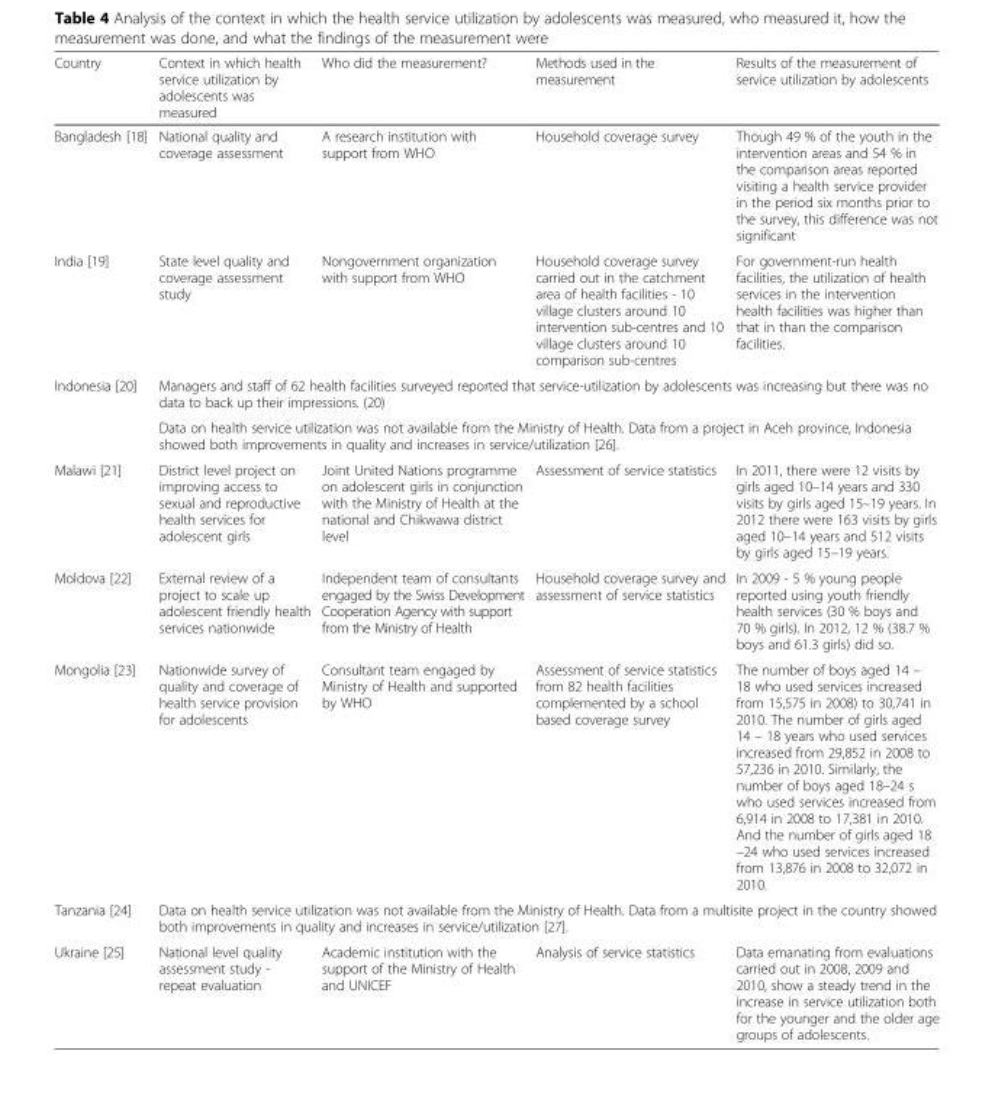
<table><thead><tr><td>Country</td><td>Context in which health service utilization by adolescents was measured</td><td>Who did the measurement?</td><td>Methods used in the measurement</td><td>Results of the measurement of service utilization by adolescents</td></tr></thead><tbody><tr><td>Bangladesh [18]</td><td>National quality and coverage assessment</td><td>A research institution with support from WHO</td><td>Household coverage survey</td><td>Though 49 % of the youth in the intervention areas and 54 % in the comparison areas reported visiting a health service provider in the period six months prior to the survey, this difference was not significant</td></tr><tr><td>India [19]</td><td>State level quality and coverage assessment study</td><td>Nongovernment organization with support from WHO</td><td>Household coverage survey carried out in the catchment area of health facilities - 10 village clusters around 10 intervention sub-centres and 10 village clusters around 10 comparison sub-centres</td><td>For government-run health facilities, the utilization of health services in the intervention health facilities was higher than that in than the comparison facilities.</td></tr><tr><td rowspan="2">Indonesia [20]</td><td colspan="4">Managers and staff of 62 health facilities surveyed reported that service-utilization by adolescents was increasing but there was no data to back up their impressions. (20)</td></tr><tr><td colspan="4">Data on health service utilization was not available from the Ministry of Health. Data from a project in Aceh province, Indonesia showed both improvements in quality and increases in service/utilization [26].</td></tr><tr><td>Malawi [21]</td><td>District level project on improving access to sexual and reproductive health services for adolescent girls</td><td>Joint United Nations programme on adolescent girls in conjunction with the Ministry of Health at the national and Chikwawa district level</td><td>Assessment of service statistics</td><td>In 2011, there were 12 visits by girls aged 10–14 years and 330 visits by girls aged 15–19 years. In 2012 there were 163 visits by girls aged 10–14 years and 512 visits by girls aged 15–19 years.</td></tr><tr><td>Moldova [22]</td><td>External review of a project to scale up adolescent friendly health services nationwide</td><td>Independent team of consultants engaged by the Swiss Development Cooperation Agency with support from the Ministry of Health</td><td>Household coverage survey and assessment of service statistics</td><td>In 2009 - 5 % young people reported using youth friendly health services (30 % boys and 70 % girls). In 2012, 12 % (38.7 % boys and 61.3 girls) did so.</td></tr><tr><td>Mongolia [23]</td><td>Nationwide survey of quality and coverage of health service provision for adolescents</td><td>Consultant team engaged by Ministry of Health and supported by WHO</td><td>Assessment of service statistics from 82 health facilities complemented by a school based coverage survey</td><td>The number of boys aged 14 – 18 who used services increased from 15,575 in 2008) to 30,741 in 2010. The number of girls aged 14 – 18 years who used services increased from 29,852 in 2008 to 57,236 in 2010. Similarly, the number of boys aged 18–24 s who used services increased from 6,914 in 2008 to 17,381 in 2010. And the number of girls aged 18 –24 who used services increased from 13,876 in 2008 to 32,072 in 2010.</td></tr><tr><td>Tanzania [24]</td><td colspan="4">Data on health service utilization was not available from the Ministry of Health. Data from a multisite project in the country showed both improvements in quality and increases in service/utilization [27].</td></tr><tr><td>Ukraine [25]</td><td>National level quality assessment study - repeat evaluation</td><td>Academic institution with the support of the Ministry of Health and UNICEF</td><td>Analysis of service statistics</td><td>Data emanating from evaluations carried out in 2008, 2009 and 2010, show a steady trend in the increase in service utilization both for the younger and the older age groups of adolescents.</td></tr></tbody></table>